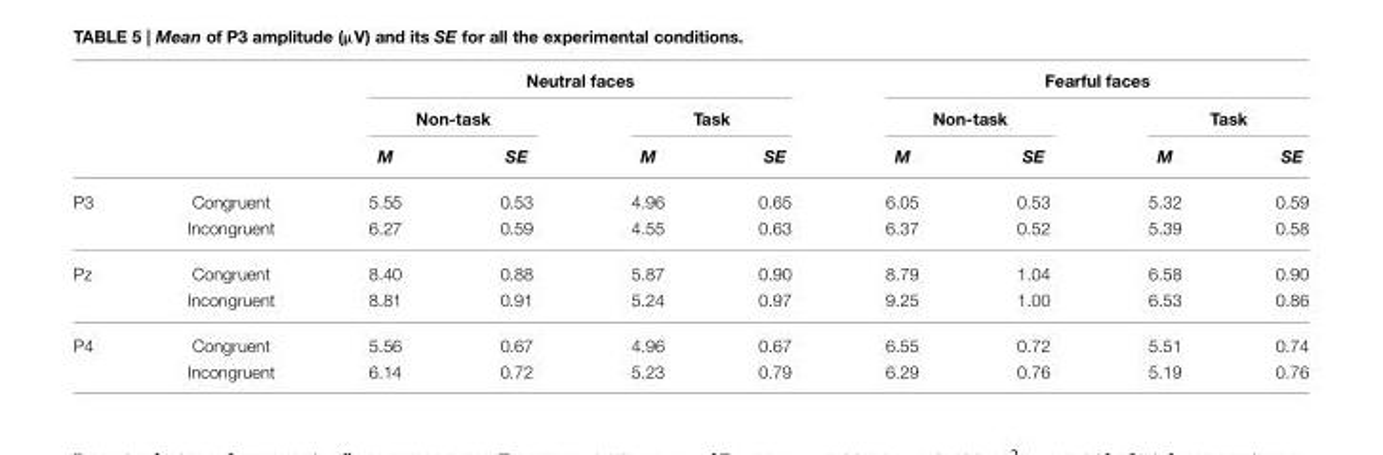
<table><thead><tr><td rowspan="3"></td><td rowspan="3"></td><td colspan="4">Neutral faces</td><td colspan="4">Fearful faces</td></tr><tr><td colspan="2">Non-task</td><td colspan="2">Task</td><td colspan="2">Non-task</td><td colspan="2">Task</td></tr><tr><td>M</td><td>SE</td><td>M</td><td>SE</td><td>M</td><td>SE</td><td>M</td><td>SE</td></tr></thead><tbody><tr><td rowspan="2">P3</td><td>Congruent</td><td>5.55</td><td>0.53</td><td>4.96</td><td>0.65</td><td>6.05</td><td>0.53</td><td>5.32</td><td>0.59</td></tr><tr><td>Incongruent</td><td>6.27</td><td>0.59</td><td>4.55</td><td>0.63</td><td>6.37</td><td>0.52</td><td>5.39</td><td>0.58</td></tr><tr><td rowspan="2">Pz</td><td>Congruent</td><td>8.40</td><td>0.88</td><td>5.87</td><td>0.90</td><td>8.79</td><td>1.04</td><td>6.58</td><td>0.90</td></tr><tr><td>Incongruent</td><td>8.81</td><td>0.91</td><td>5.24</td><td>0.97</td><td>9.25</td><td>1.00</td><td>6.53</td><td>0.86</td></tr><tr><td rowspan="2">P4</td><td>Congruent</td><td>5.56</td><td>0.67</td><td>4.96</td><td>0.67</td><td>6.55</td><td>0.72</td><td>5.51</td><td>0.74</td></tr><tr><td>Incongruent</td><td>6.14</td><td>0.72</td><td>5.23</td><td>0.79</td><td>6.29</td><td>0.76</td><td>5.19</td><td>0.76</td></tr></tbody></table>